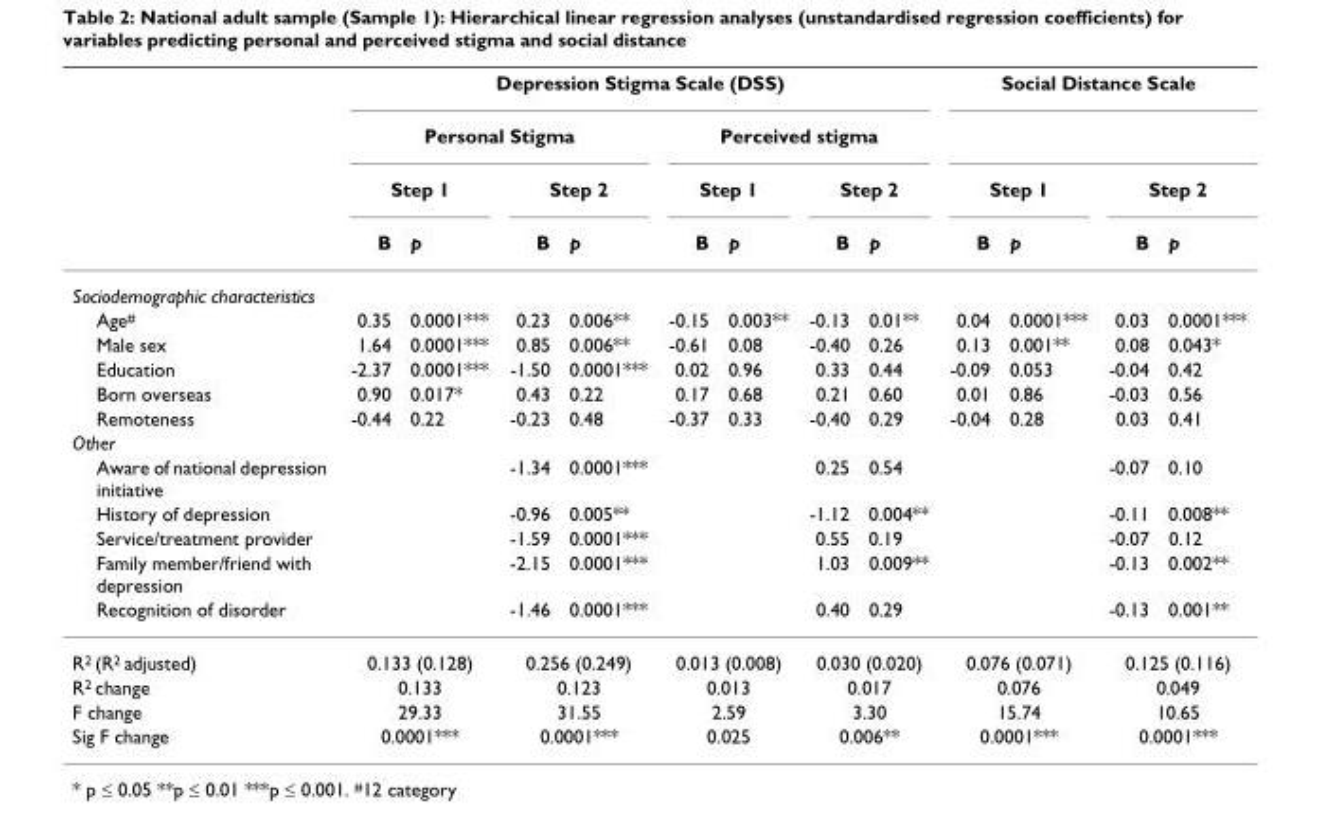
<table><thead><tr><td rowspan="4"></td><td colspan="8">Depression Stigma Scale (DSS)</td><td colspan="4">Social Distance Scale</td></tr><tr><td colspan="4">Personal Stigma</td><td colspan="4">Perceived stigma</td><td></td><td></td><td></td><td></td></tr><tr><td colspan="2">Step 1</td><td colspan="2">Step 2</td><td colspan="2">Step 1</td><td colspan="2">Step 2</td><td colspan="2">Step 1</td><td colspan="2">Step 2</td></tr><tr><td>B</td><td>p</td><td>B</td><td>p</td><td>B</td><td>p</td><td>B</td><td>p</td><td>B</td><td>p</td><td>B</td><td>p</td></tr></thead><tbody><tr><td colspan="13">Sociodemographic characteristics</td></tr><tr><td>Age<sup>#</sup></td><td>0.35</td><td>0.0001***</td><td>0.23</td><td>0.006**</td><td>-0.15</td><td>0.003**</td><td>-0.13</td><td>0.01**</td><td>0.04</td><td>0.0001***</td><td>0.03</td><td>0.0001***</td></tr><tr><td>Male sex</td><td>1.64</td><td>0.0001***</td><td>0.85</td><td>0.006**</td><td>-0.61</td><td>0.08</td><td>-0.40</td><td>0.26</td><td>0.13</td><td>0.001**</td><td>0.08</td><td>0.043*</td></tr><tr><td>Education</td><td>-2.37</td><td>0.0001***</td><td>-1.50</td><td>0.0001***</td><td>0.02</td><td>0.96</td><td>0.33</td><td>0.44</td><td>-0.09</td><td>0.053</td><td>-0.04</td><td>0.42</td></tr><tr><td>Born overseas</td><td>0.90</td><td>0.017*</td><td>0.43</td><td>0.22</td><td>0.17</td><td>0.68</td><td>0.21</td><td>0.60</td><td>0.01</td><td>0.86</td><td>-0.03</td><td>0.56</td></tr><tr><td>Remoteness</td><td>-0.44</td><td>0.22</td><td>-0.23</td><td>0.48</td><td>-0.37</td><td>0.33</td><td>-0.40</td><td>0.29</td><td>-0.04</td><td>0.28</td><td>0.03</td><td>0.41</td></tr><tr><td colspan="13">Other</td></tr><tr><td>Aware of national depression initiative</td><td></td><td></td><td>-1.34</td><td>0.0001***</td><td></td><td></td><td>0.25</td><td>0.54</td><td></td><td></td><td>-0.07</td><td>0.10</td></tr><tr><td>History of depression</td><td></td><td></td><td>-0.96</td><td>0.005**</td><td></td><td></td><td>-1.12</td><td>0.004**</td><td></td><td></td><td>-0.11</td><td>0.008**</td></tr><tr><td>Service/treatment provider</td><td></td><td></td><td>-1.59</td><td>0.0001***</td><td></td><td></td><td>0.55</td><td>0.19</td><td></td><td></td><td>-0.07</td><td>0.12</td></tr><tr><td>Family member/friend with depression</td><td></td><td></td><td>-2.15</td><td>0.0001***</td><td></td><td></td><td>1.03</td><td>0.009**</td><td></td><td></td><td>-0.13</td><td>0.002**</td></tr><tr><td>Recognition of disorder</td><td></td><td></td><td>-1.46</td><td>0.0001***</td><td></td><td></td><td>0.40</td><td>0.29</td><td></td><td></td><td>-0.13</td><td>0.001**</td></tr><tr><td>R<sup>2</sup> (R<sup>2</sup> adjusted)</td><td colspan="2">0.133 (0.128)</td><td colspan="2">0.256 (0.249)</td><td colspan="2">0.013 (0.008)</td><td colspan="2">0.030 (0.020)</td><td colspan="2">0.076 (0.071)</td><td colspan="2">0.125 (0.116)</td></tr><tr><td>R<sup>2</sup> change</td><td colspan="2">0.133</td><td colspan="2">0.123</td><td colspan="2">0.013</td><td colspan="2">0.017</td><td colspan="2">0.076</td><td colspan="2">0.049</td></tr><tr><td>F change</td><td colspan="2">29.33</td><td colspan="2">31.55</td><td colspan="2">2.59</td><td colspan="2">3.30</td><td colspan="2">15.74</td><td colspan="2">10.65</td></tr><tr><td>Sig F change</td><td colspan="2">0.0001***</td><td colspan="2">0.0001***</td><td colspan="2">0.025</td><td colspan="2">0.006**</td><td colspan="2">0.0001***</td><td colspan="2">0.0001***</td></tr></tbody></table>